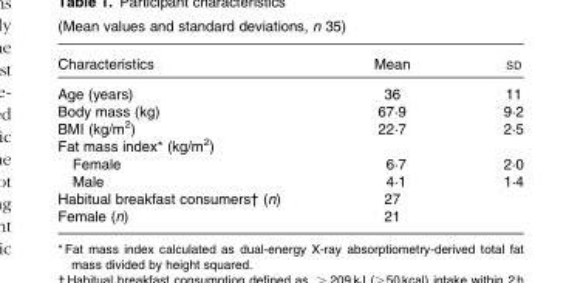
<table><thead><tr><td>Characteristics</td><td>Mean</td><td>SD</td></tr></thead><tbody><tr><td>Age (years)</td><td>36</td><td>11</td></tr><tr><td>Body mass (kg)</td><td>67·9</td><td>9·2</td></tr><tr><td>BMI (kg/m<sup>2</sup>)</td><td>22·7</td><td>2·5</td></tr><tr><td colspan="3">Fat mass index* (kg/m<sup>2</sup>)</td></tr><tr><td>Female</td><td>6·7</td><td>2·0</td></tr><tr><td>Male</td><td>4·1</td><td>1·4</td></tr><tr><td>Habitual breakfast consumers† (n)</td><td>27</td><td></td></tr><tr><td>Female (n)</td><td>21</td><td></td></tr></tbody></table>